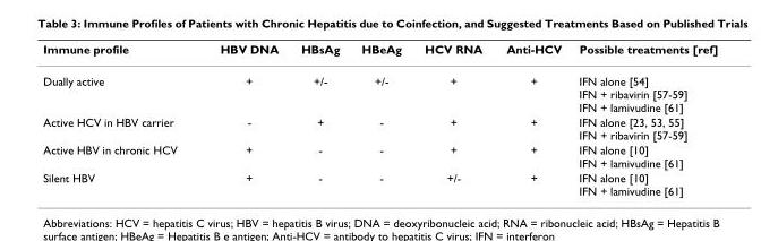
<table><thead><tr><td>Immune profile</td><td>HBV DNA</td><td>HBsAg</td><td>HBeAg</td><td>HCV RNA</td><td>Anti-HCV</td><td>Possible treatments [ref]</td></tr></thead><tbody><tr><td>Dually active</td><td>+</td><td>+/-</td><td>+/-</td><td>+</td><td>+</td><td>IFN alone [54] IFN + ribavirin [57-59] IFN + lamivudine [61]</td></tr><tr><td>Active HCV in HBV carrier</td><td>-</td><td>+</td><td>-</td><td>+</td><td>+</td><td>IFN alone [23, 53, 55] IFN + ribavirin [57-59]</td></tr><tr><td>Active HBV in chronic HCV</td><td>+</td><td>-</td><td>-</td><td>+</td><td>+</td><td>IFN alone [10] IFN + lamivudine [61]</td></tr><tr><td>Silent HBV</td><td>+</td><td>-</td><td>-</td><td>+/-</td><td>+</td><td>IFN alone [10] IFN + lamivudine [61]</td></tr></tbody></table>